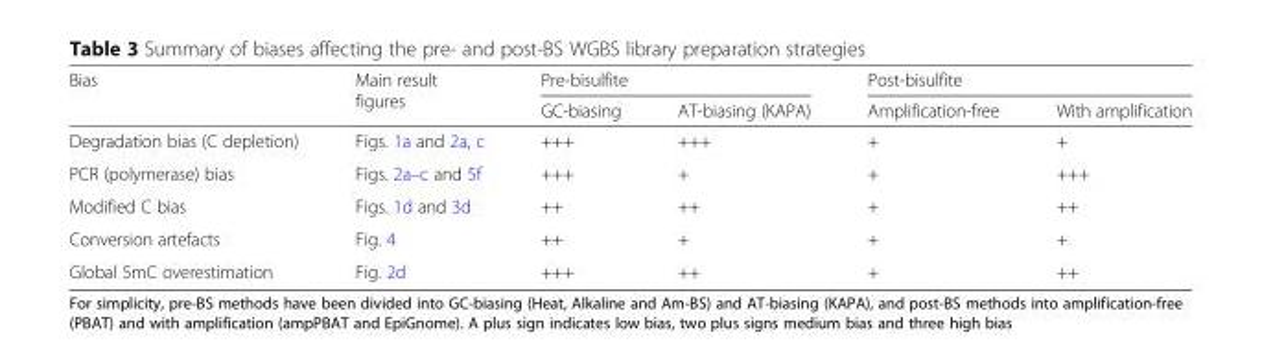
<table><thead><tr><td rowspan="2">Bias</td><td rowspan="2">Main result figures</td><td colspan="2">Pre-bisulfite</td><td colspan="2">Post-bisulfite</td></tr><tr><td>GC-biasing</td><td>AT-biasing (KAPA)</td><td>Amplification-free</td><td>With amplification</td></tr></thead><tbody><tr><td>Degradation bias (C depletion)</td><td>Figs. 1a and 2a, c</td><td>+++</td><td>+++</td><td>+</td><td>+</td></tr><tr><td>PCR (polymerase) bias</td><td>Figs. 2a–c and 5f</td><td>+++</td><td>+</td><td>+</td><td>+++</td></tr><tr><td>Modified C bias</td><td>Figs. 1d and 3d</td><td>++</td><td>++</td><td>+</td><td>++</td></tr><tr><td>Conversion artefacts</td><td>Fig. 4</td><td>++</td><td>+</td><td>+</td><td>+</td></tr><tr><td>Global 5mC overestimation</td><td>Fig. 2d</td><td>+++</td><td>++</td><td>+</td><td>++</td></tr></tbody></table>